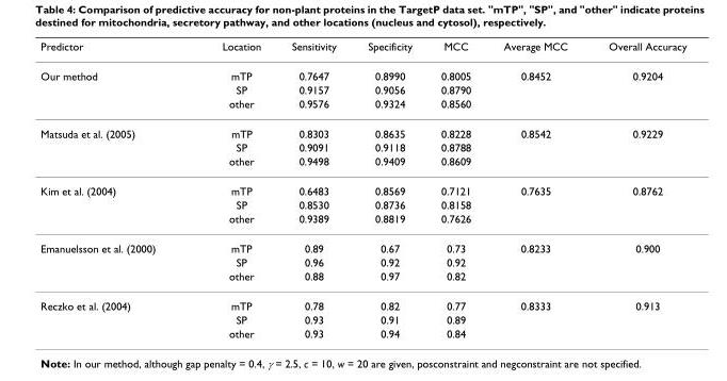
<table><thead><tr><td>Predictor</td><td>Location</td><td>Sensitivity</td><td>Specificity</td><td>MCC</td><td>Average MCC</td><td>Overall Accuracy</td></tr></thead><tbody><tr><td rowspan="3">Our method</td><td>mTP</td><td>0.7647</td><td>0.8990</td><td>0.8005</td><td>0.8452</td><td>0.9204</td></tr><tr><td>SP</td><td>0.9157</td><td>0.9056</td><td>0.8790</td><td></td><td></td></tr><tr><td>other</td><td>0.9576</td><td>0.9324</td><td>0.8560</td><td></td><td></td></tr><tr><td rowspan="3">Matsuda et al. (2005)</td><td>mTP</td><td>0.8303</td><td>0.8635</td><td>0.8228</td><td>0.8542</td><td>0.9229</td></tr><tr><td>SP</td><td>0.9091</td><td>0.9118</td><td>0.8788</td><td></td><td></td></tr><tr><td>other</td><td>0.9498</td><td>0.9409</td><td>0.8609</td><td></td><td></td></tr><tr><td rowspan="3">Kim et al. (2004)</td><td>mTP</td><td>0.6483</td><td>0.8569</td><td>0.7121</td><td>0.7635</td><td>0.8762</td></tr><tr><td>SP</td><td>0.8530</td><td>0.8736</td><td>0.8158</td><td></td><td></td></tr><tr><td>other</td><td>0.9389</td><td>0.8819</td><td>0.7626</td><td></td><td></td></tr><tr><td rowspan="3">Emanuelsson et al. (2000)</td><td>mTP</td><td>0.89</td><td>0.67</td><td>0.73</td><td>0.8233</td><td>0.900</td></tr><tr><td>SP</td><td>0.96</td><td>0.92</td><td>0.92</td><td></td><td></td></tr><tr><td>other</td><td>0.88</td><td>0.97</td><td>0.82</td><td></td><td></td></tr><tr><td rowspan="3">Reczko et al. (2004)</td><td>mTP</td><td>0.78</td><td>0.82</td><td>0.77</td><td>0.8333</td><td>0.913</td></tr><tr><td>SP</td><td>0.93</td><td>0.91</td><td>0.89</td><td></td><td></td></tr><tr><td>other</td><td>0.93</td><td>0.94</td><td>0.84</td><td></td><td></td></tr></tbody></table>